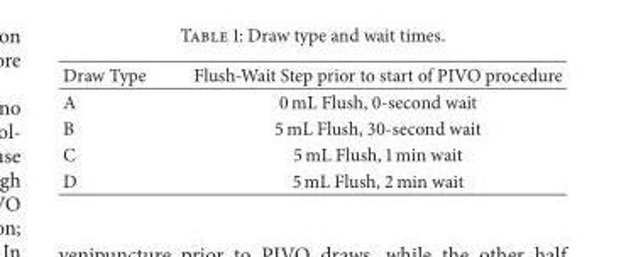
<table><thead><tr><td>Draw Type</td><td>Flush-Wait Step prior to start of PIVO procedure</td></tr></thead><tbody><tr><td>A</td><td>0 mL Flush, 0-second wait</td></tr><tr><td>B</td><td>5 mL Flush, 30-second wait</td></tr><tr><td>C</td><td>5 mL Flush, 1 min wait</td></tr><tr><td>D</td><td>5 mL Flush, 2 min wait</td></tr></tbody></table>